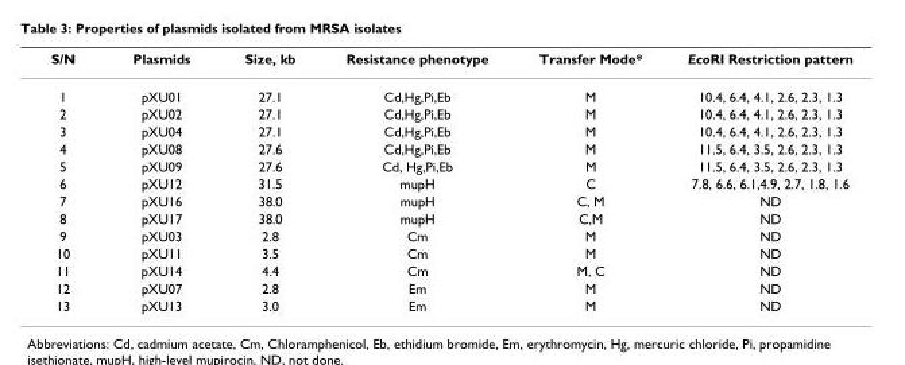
<table><thead><tr><td>S/N</td><td>Plasmids</td><td>Size, kb</td><td>Resistance phenotype</td><td>Transfer Mode*</td><td>EcoRI Restriction pattern</td></tr></thead><tbody><tr><td>1</td><td>pXU01</td><td>27.1</td><td>Cd,Hg,Pi,Eb</td><td>M</td><td>10.4, 6.4, 4.1, 2.6, 2.3, 1.3</td></tr><tr><td>2</td><td>pXU02</td><td>27.1</td><td>Cd,Hg,Pi,Eb</td><td>M</td><td>10.4, 6.4, 4.1, 2.6, 2.3, 1.3</td></tr><tr><td>3</td><td>pXU04</td><td>27.1</td><td>Cd,Hg,Pi,Eb</td><td>M</td><td>10.4, 6.4, 4.1, 2.6, 2.3, 1.3</td></tr><tr><td>4</td><td>pXU08</td><td>27.6</td><td>Cd,Hg,Pi,Eb</td><td>M</td><td>11.5, 6.4, 3.5, 2.6, 2.3, 1.3</td></tr><tr><td>5</td><td>pXU09</td><td>27.6</td><td>Cd, Hg,Pi,Eb</td><td>M</td><td>11.5, 6.4, 3.5, 2.6, 2.3, 1.3</td></tr><tr><td>6</td><td>pXU12</td><td>31.5</td><td>mupH</td><td>C</td><td>7.8, 6.6, 6.1,4.9, 2.7, 1.8, 1.6</td></tr><tr><td>7</td><td>pXU16</td><td>38.0</td><td>mupH</td><td>C, M</td><td>ND</td></tr><tr><td>8</td><td>pXU17</td><td>38.0</td><td>mupH</td><td>C,M</td><td>ND</td></tr><tr><td>9</td><td>pXU03</td><td>2.8</td><td>Cm</td><td>M</td><td>ND</td></tr><tr><td>10</td><td>pXU11</td><td>3.5</td><td>Cm</td><td>M</td><td>ND</td></tr><tr><td>11</td><td>pXU14</td><td>4.4</td><td>Cm</td><td>M, C</td><td>ND</td></tr><tr><td>12</td><td>pXU07</td><td>2.8</td><td>Em</td><td>M</td><td>ND</td></tr><tr><td>13</td><td>pXU13</td><td>3.0</td><td>Em</td><td>M</td><td>ND</td></tr></tbody></table>